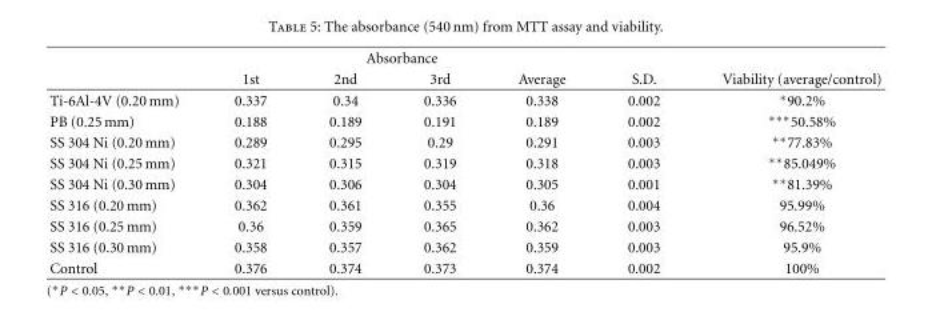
<table><thead><tr><td rowspan="2"></td><td colspan="4">Absorbance</td><td rowspan="2">S.D.</td><td rowspan="2">Viability (average/control)</td></tr><tr><td>1st</td><td>2nd</td><td>3rd</td><td>Average</td></tr></thead><tbody><tr><td>Ti-6Al-4V (0.20 mm)</td><td>0.337</td><td>0.34</td><td>0.336</td><td>0.338</td><td>0.002</td><td>∗90.2%</td></tr><tr><td>PB (0.25 mm)</td><td>0.188</td><td>0.189</td><td>0.191</td><td>0.189</td><td>0.002</td><td>∗∗∗50.58%</td></tr><tr><td>SS 304 Ni (0.20 mm)</td><td>0.289</td><td>0.295</td><td>0.29</td><td>0.291</td><td>0.003</td><td>∗∗77.83%</td></tr><tr><td>SS 304 Ni (0.25 mm)</td><td>0.321</td><td>0.315</td><td>0.319</td><td>0.318</td><td>0.003</td><td>∗∗85.049%</td></tr><tr><td>SS 304 Ni (0.30 mm)</td><td>0.304</td><td>0.306</td><td>0.304</td><td>0.305</td><td>0.001</td><td>∗∗81.39%</td></tr><tr><td>SS 316 (0.20 mm)</td><td>0.362</td><td>0.361</td><td>0.355</td><td>0.36</td><td>0.004</td><td>95.99%</td></tr><tr><td>SS 316 (0.25 mm)</td><td>0.36</td><td>0.359</td><td>0.365</td><td>0.362</td><td>0.003</td><td>96.52%</td></tr><tr><td>SS 316 (0.30 mm)</td><td>0.358</td><td>0.357</td><td>0.362</td><td>0.359</td><td>0.003</td><td>95.9%</td></tr><tr><td>Control</td><td>0.376</td><td>0.374</td><td>0.373</td><td>0.374</td><td>0.002</td><td>100%</td></tr></tbody></table>